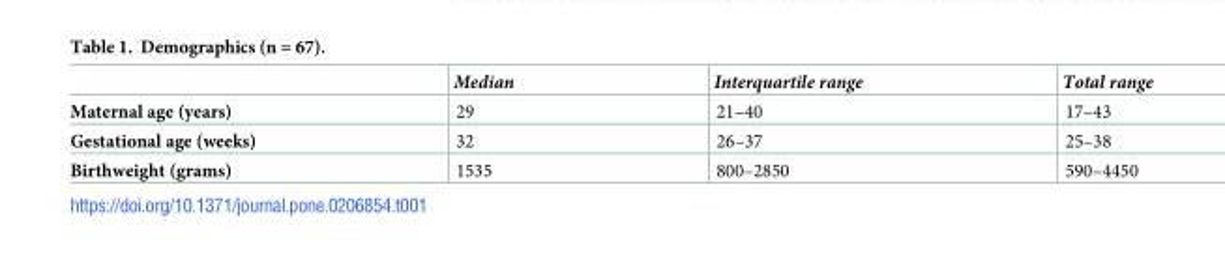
<table><thead><tr><td></td><td>Median</td><td>Interquartile range</td><td>Total range</td></tr></thead><tbody><tr><td>Maternal age (years)</td><td>29</td><td>21–40</td><td>17–43</td></tr><tr><td>Gestational age (weeks)</td><td>32</td><td>26–37</td><td>25–38</td></tr><tr><td>Birthweight (grams)</td><td>1535</td><td>800–2850</td><td>590–4450</td></tr></tbody></table>